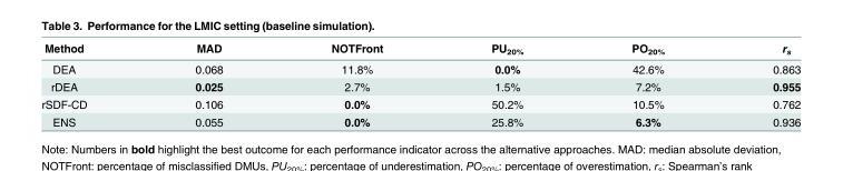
<table><thead><tr><td>Method</td><td>MAD</td><td>NOTFront</td><td>PU<sub>20%</sub></td><td>PO<sub>20%</sub></td><td>r<sub>s</sub></td></tr></thead><tbody><tr><td>DEA</td><td>0.068</td><td>11.8%</td><td>0.0%</td><td>42.6%</td><td>0.863</td></tr><tr><td>rDEA</td><td>0.025</td><td>2.7%</td><td>1.5%</td><td>7.2%</td><td>0.955</td></tr><tr><td>rSDF-CD</td><td>0.106</td><td>0.0%</td><td>50.2%</td><td>10.5%</td><td>0.762</td></tr><tr><td>ENS</td><td>0.055</td><td>0.0%</td><td>25.8%</td><td>6.3%</td><td>0.936</td></tr></tbody></table>